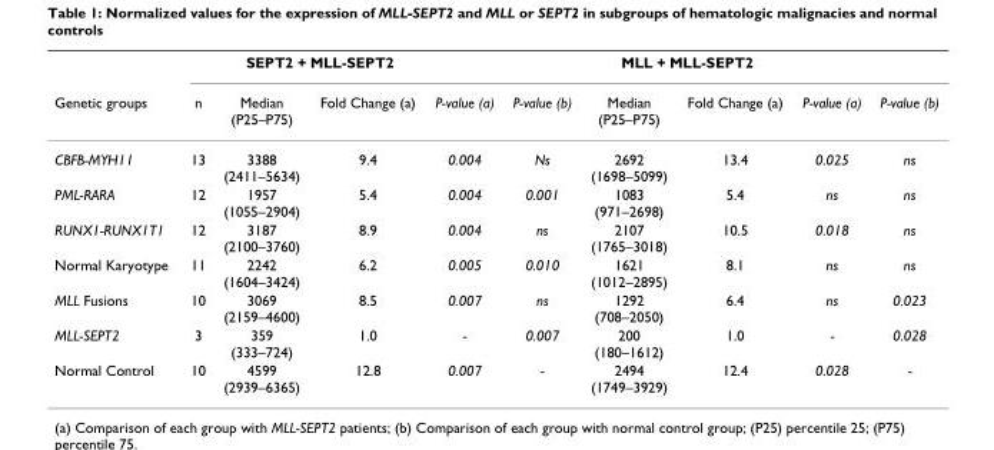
<table><thead><tr><td rowspan="2">Genetic groups</td><td rowspan="2">n</td><td colspan="2">SEPT2 + MLL-SEPT2</td><td rowspan="2">P-value (a)</td><td rowspan="2">P-value (b)</td><td colspan="2">MLL + MLL-SEPT2</td><td rowspan="2">P-value (a)</td><td rowspan="2">P-value (b)</td></tr><tr><td>Median (P25–P75)</td><td>Fold Change (a)</td><td>Median (P25–P75)</td><td>Fold Change (a)</td></tr></thead><tbody><tr><td>CBFB-MYH11</td><td>13</td><td>3388 (2411–5634)</td><td>9.4</td><td>0.004</td><td>Ns</td><td>2692 (1698–5099)</td><td>13.4</td><td>0.025</td><td>ns</td></tr><tr><td>PML-RARA</td><td>12</td><td>1957 (1055–2904)</td><td>5.4</td><td>0.004</td><td>0.001</td><td>1083 (971–2698)</td><td>5.4</td><td>ns</td><td>ns</td></tr><tr><td>RUNX1-RUNX1T1</td><td>12</td><td>3187 (2100–3760)</td><td>8.9</td><td>0.004</td><td>ns</td><td>2107 (1765–3018)</td><td>10.5</td><td>0.018</td><td>ns</td></tr><tr><td>Normal Karyotype</td><td>11</td><td>2242 (1604–3424)</td><td>6.2</td><td>0.005</td><td>0.010</td><td>1621 (1012–2895)</td><td>8.1</td><td>ns</td><td>ns</td></tr><tr><td>MLL Fusions</td><td>10</td><td>3069 (2159–4600)</td><td>8.5</td><td>0.007</td><td>ns</td><td>1292 (708–2050)</td><td>6.4</td><td>ns</td><td>0.023</td></tr><tr><td>MLL-SEPT2</td><td>3</td><td>359 (333–724)</td><td>1.0</td><td>-</td><td>0.007</td><td>200 (180–1612)</td><td>1.0</td><td>-</td><td>0.028</td></tr><tr><td>Normal Control</td><td>10</td><td>4599 (2939–6365)</td><td>12.8</td><td>0.007</td><td>-</td><td>2494 (1749–3929)</td><td>12.4</td><td>0.028</td><td>-</td></tr></tbody></table>